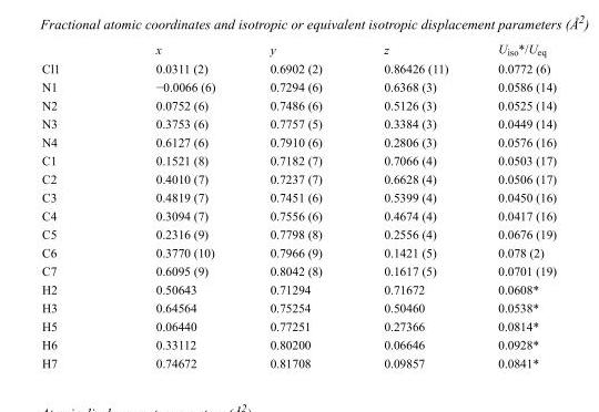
<table><thead><tr><td></td><td>x</td><td>y</td><td>z</td><td>U<sub>iso</sub>*/U<sub>eq</sub></td></tr></thead><tbody><tr><td>Cl1</td><td>0.0311 (2)</td><td>0.6902 (2)</td><td>0.86426 (11)</td><td>0.0772 (6)</td></tr><tr><td>N1</td><td>−0.0066 (6)</td><td>0.7294 (6)</td><td>0.6368 (3)</td><td>0.0586 (14)</td></tr><tr><td>N2</td><td>0.0752 (6)</td><td>0.7486 (6)</td><td>0.5126 (3)</td><td>0.0525 (14)</td></tr><tr><td>N3</td><td>0.3753 (6)</td><td>0.7757 (5)</td><td>0.3384 (3)</td><td>0.0449 (14)</td></tr><tr><td>N4</td><td>0.6127 (6)</td><td>0.7910 (6)</td><td>0.2806 (3)</td><td>0.0576 (16)</td></tr><tr><td>C1</td><td>0.1521 (8)</td><td>0.7182 (7)</td><td>0.7066 (4)</td><td>0.0503 (17)</td></tr><tr><td>C2</td><td>0.4010 (7)</td><td>0.7237 (7)</td><td>0.6628 (4)</td><td>0.0506 (17)</td></tr><tr><td>C3</td><td>0.4819 (7)</td><td>0.7451 (6)</td><td>0.5399 (4)</td><td>0.0450 (16)</td></tr><tr><td>C4</td><td>0.3094 (7)</td><td>0.7556 (6)</td><td>0.4674 (4)</td><td>0.0417 (16)</td></tr><tr><td>C5</td><td>0.2316 (9)</td><td>0.7798 (8)</td><td>0.2556 (4)</td><td>0.0676 (19)</td></tr><tr><td>C6</td><td>0.3770 (10)</td><td>0.7966 (9)</td><td>0.1421 (5)</td><td>0.078 (2)</td></tr><tr><td>C7</td><td>0.6095 (9)</td><td>0.8042 (8)</td><td>0.1617 (5)</td><td>0.0701 (19)</td></tr><tr><td>H2</td><td>0.50643</td><td>0.71294</td><td>0.71672</td><td>0.0608*</td></tr><tr><td>H3</td><td>0.64564</td><td>0.75254</td><td>0.50460</td><td>0.0538*</td></tr><tr><td>H5</td><td>0.06440</td><td>0.77251</td><td>0.27366</td><td>0.0814*</td></tr><tr><td>H6</td><td>0.33112</td><td>0.80200</td><td>0.06646</td><td>0.0928*</td></tr><tr><td>H7</td><td>0.74672</td><td>0.81708</td><td>0.09857</td><td>0.0841*</td></tr></tbody></table>